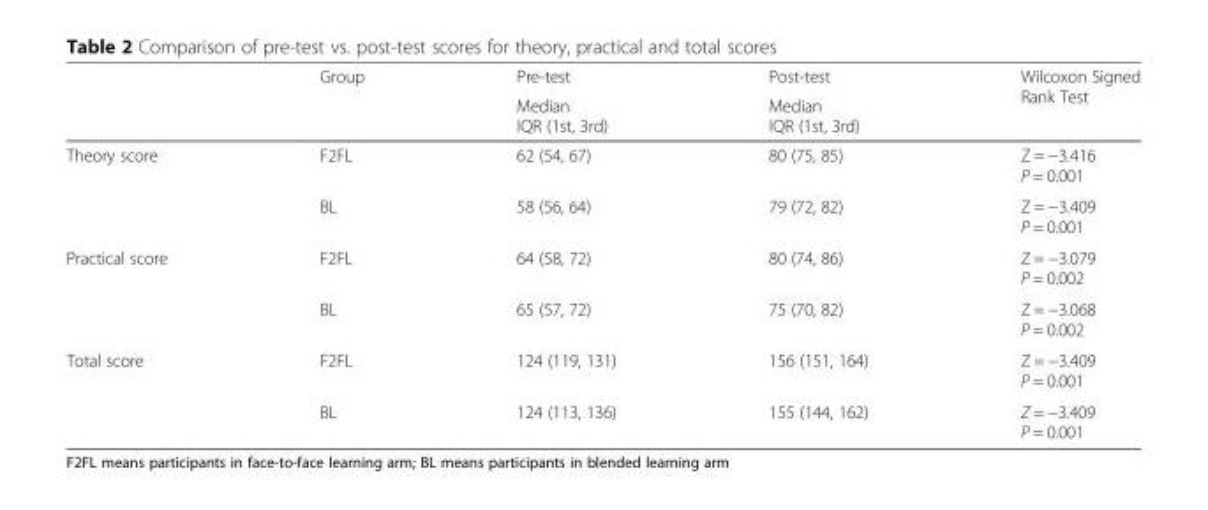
<table><thead><tr><td rowspan="2"></td><td rowspan="2">Group</td><td rowspan="2">Pre-test Median IQR (1st, 3rd)</td><td rowspan="2">Post-test Median IQR (1st, 3rd)</td><td rowspan="2">Wilcoxon Signed Rank Test</td></tr><tr></tr></thead><tbody><tr><td rowspan="2">Theory score</td><td>F2FL</td><td>62 (54, 67)</td><td>80 (75, 85)</td><td>Z = −3.416 P = 0.001</td></tr><tr><td>BL</td><td>58 (56, 64)</td><td>79 (72, 82)</td><td>Z = −3.409 P = 0.001</td></tr><tr><td rowspan="2">Practical score</td><td>F2FL</td><td>64 (58, 72)</td><td>80 (74, 86)</td><td>Z = −3.079 P = 0.002</td></tr><tr><td>BL</td><td>65 (57, 72)</td><td>75 (70, 82)</td><td>Z = −3.068 P = 0.002</td></tr><tr><td rowspan="2">Total score</td><td>F2FL</td><td>124 (119, 131)</td><td>156 (151, 164)</td><td>Z = −3.409 P = 0.001</td></tr><tr><td>BL</td><td>124 (113, 136)</td><td>155 (144, 162)</td><td>Z = −3.409 P = 0.001</td></tr></tbody></table>